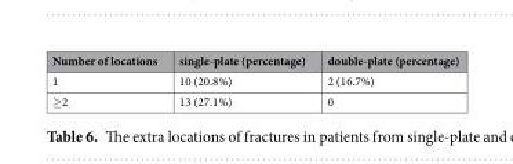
<table><thead><tr><td>Number of locations</td><td>single-plate (percentage)</td><td>double-plate (percentage)</td></tr></thead><tbody><tr><td>1</td><td>10 (20.8%)</td><td>2 (16.7%)</td></tr><tr><td>≥2</td><td>13 (27.1%)</td><td>0</td></tr></tbody></table>